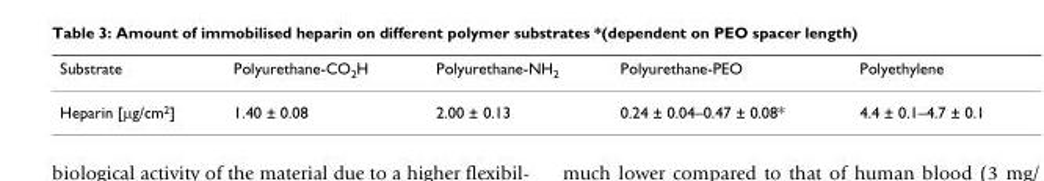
<table><thead><tr><td>Substrate</td><td>Polyurethane-CO<sub>2</sub>H</td><td>Polyurethane-NH<sub>2</sub></td><td>Polyurethane-PEO</td><td>Polyethylene</td></tr></thead><tbody><tr><td>Heparin [µg/cm<sup>2</sup>]</td><td>1.40 ± 0.08</td><td>2.00 ± 0.13</td><td>0.24 ± 0.04–0.47 ± 0.08*</td><td>4.4 ± 0.1–4.7 ± 0.1</td></tr></tbody></table>